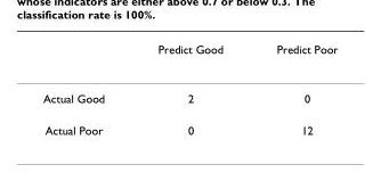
<table><thead><tr><td></td><td>Predict Good</td><td>Predict Poor</td></tr></thead><tbody><tr><td>Actual Good</td><td>2</td><td>0</td></tr><tr><td>Actual Poor</td><td>0</td><td>12</td></tr></tbody></table>